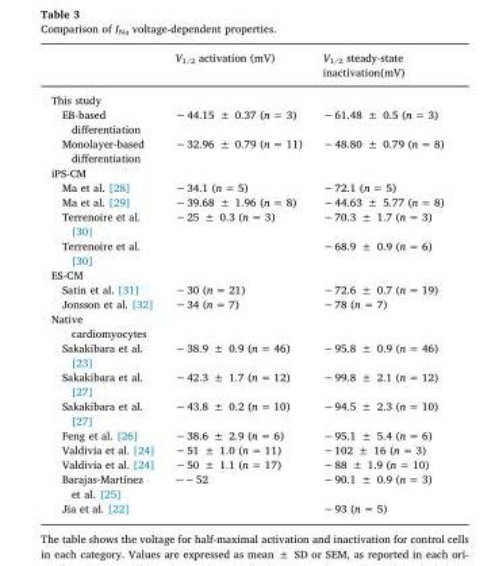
<table><thead><tr><td></td><td>V<sub>1/2</sub> activation (mV)</td><td>V<sub>1/2</sub> steady-state inactivation(mV)</td></tr></thead><tbody><tr><td colspan="3">This study</td></tr><tr><td>EB-based differentiation</td><td>−44.15 ± 0.37 (n = 3)</td><td>−61.48 ± 0.5 (n = 3)</td></tr><tr><td>Monolayer-based differentiation</td><td>−32.96 ± 0.79 (n = 11)</td><td>−48.80 ± 0.79 (n = 8)</td></tr><tr><td colspan="3">iPS-CM</td></tr><tr><td>Ma et al. [28]</td><td>−34.1 (n = 5)</td><td>−72.1 (n = 5)</td></tr><tr><td>Ma et al. [29]</td><td>−39.68 ± 1.96 (n = 8)</td><td>−44.63 ± 5.77 (n = 8)</td></tr><tr><td>Terrenoire et al. [30]</td><td>−25 ± 0.3 (n = 3)</td><td>−70.3 ± 1.7 (n = 3)</td></tr><tr><td>Terrenoire et al. [30]</td><td></td><td>−68.9 ± 0.9 (n = 6)</td></tr><tr><td colspan="3">ES-CM</td></tr><tr><td>Satin et al. [31]</td><td>−30 (n = 21)</td><td>−72.6 ± 0.7 (n = 19)</td></tr><tr><td>Jonsson et al. [32]</td><td>−34 (n = 7)</td><td>−78 (n = 7)</td></tr><tr><td colspan="3">Native cardiomyocytes</td></tr><tr><td>Sakakibara et al. [23]</td><td>−38.9 ± 0.9 (n = 46)</td><td>−95.8 ± 0.9 (n = 46)</td></tr><tr><td>Sakakibara et al. [27]</td><td>−42.3 ± 1.7 (n = 12)</td><td>−99.8 ± 2.1 (n = 12)</td></tr><tr><td>Sakakibara et al. [27]</td><td>−43.8 ± 0.2 (n = 10)</td><td>−94.5 ± 2.3 (n = 10)</td></tr><tr><td>Feng et al. [26]</td><td>−38.6 ± 2.9 (n = 6)</td><td>−95.1 ± 5.4 (n = 6)</td></tr><tr><td>Valdivia et al. [24]</td><td>−51 ± 1.0 (n = 11)</td><td>−102 ± 16 (n = 3)</td></tr><tr><td>Valdivia et al. [24]</td><td>−50 ± 1.1 (n = 17)</td><td>−88 ± 1.9 (n = 10)</td></tr><tr><td>Barajas-Martínez et al. [25]</td><td>~−52</td><td>−90.1 ± 0.9 (n = 3)</td></tr><tr><td>Jia et al. [22]</td><td></td><td>−93 (n = 5)</td></tr></tbody></table>